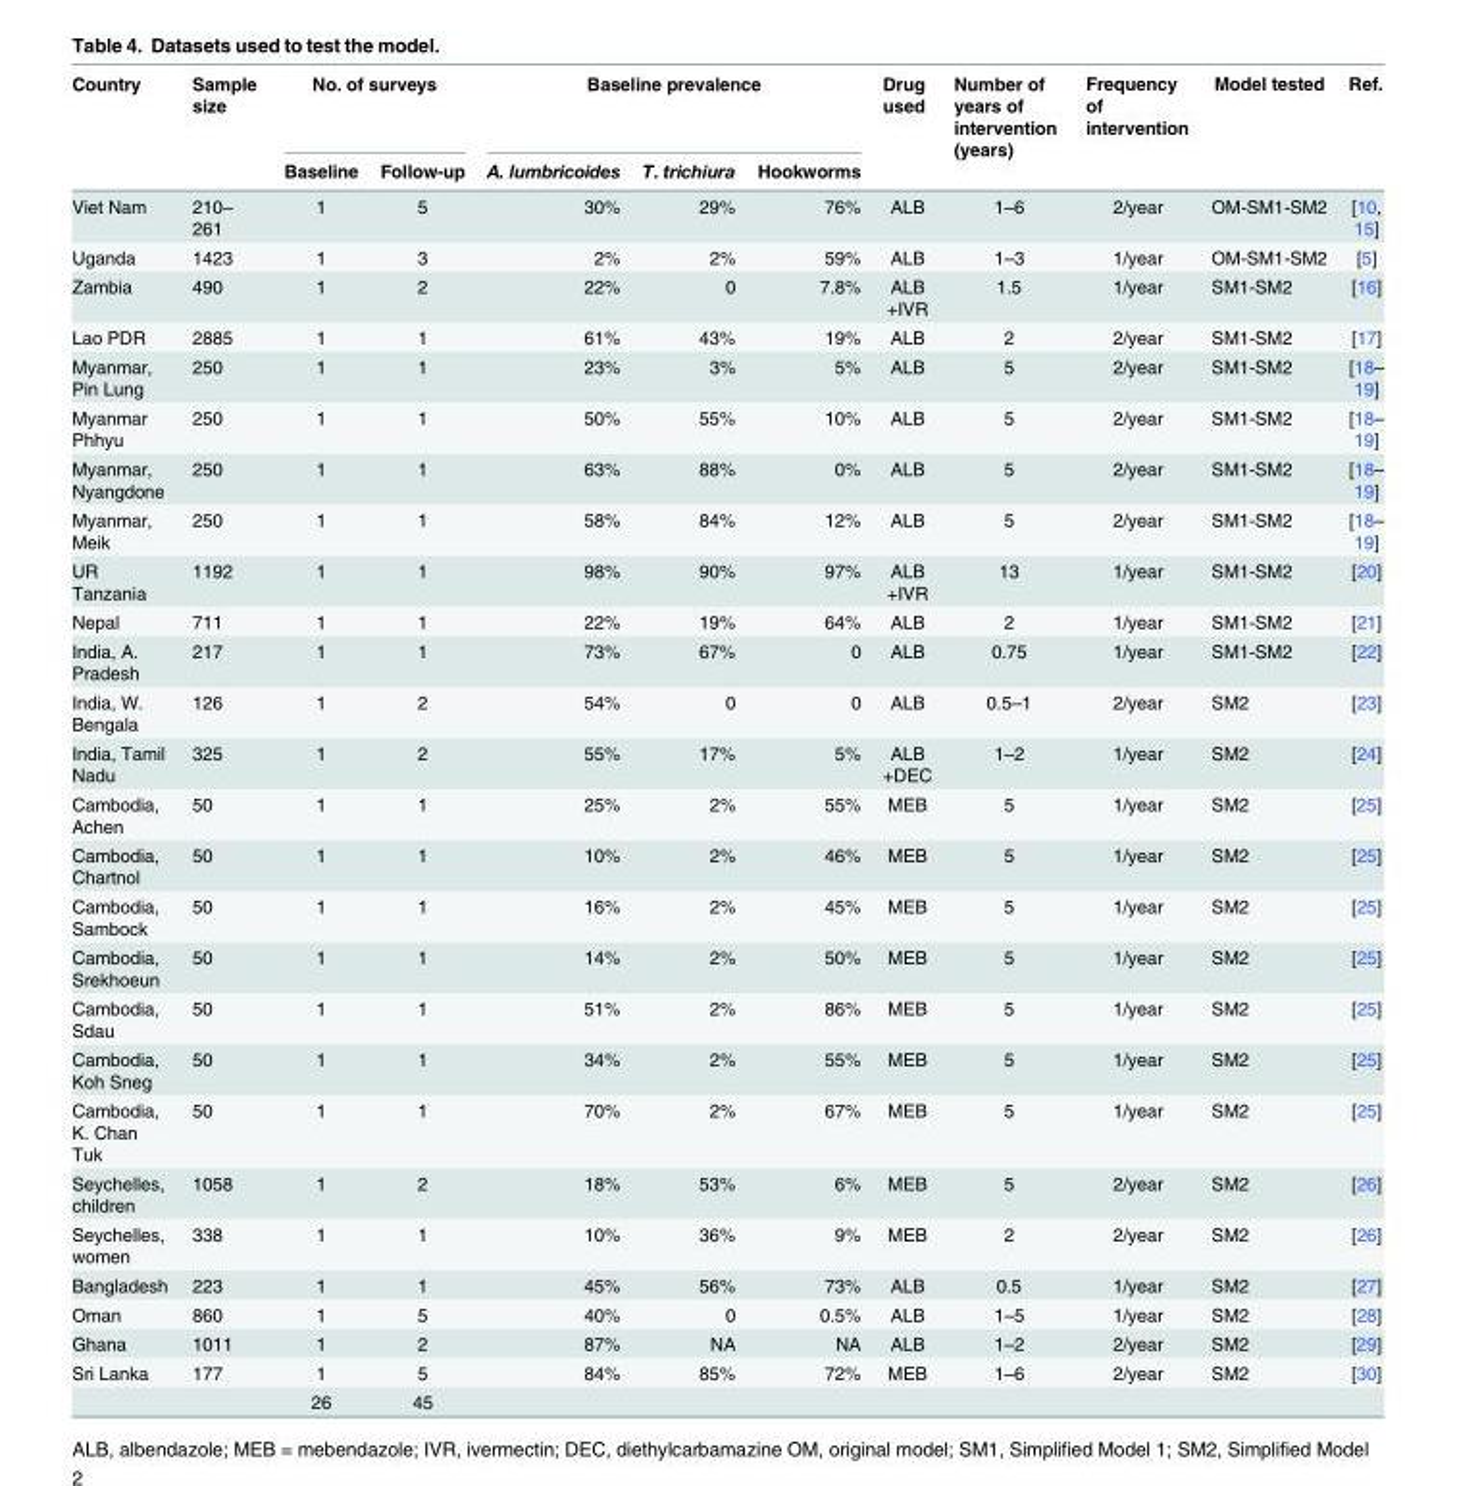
<table><thead><tr><td rowspan="2">Country</td><td rowspan="2">Sample size</td><td colspan="2">No. of surveys</td><td colspan="3">Baseline prevalence</td><td rowspan="2">Drug used</td><td rowspan="2">Number of years of intervention (years)</td><td rowspan="2">Frequency of intervention</td><td rowspan="2">Model tested</td><td rowspan="2">Ref.</td></tr><tr><td>Baseline</td><td>Follow-up</td><td>A. lumbricoides</td><td>T. trichiura</td><td>Hookworms</td></tr></thead><tbody><tr><td>Viet Nam</td><td>210– 261</td><td>1</td><td>5</td><td>30%</td><td>29%</td><td>76%</td><td>ALB</td><td>1–6</td><td>2/year</td><td>OM-SM1-SM2</td><td>[10, 15]</td></tr><tr><td>Uganda</td><td>1423</td><td>1</td><td>3</td><td>2%</td><td>2%</td><td>59%</td><td>ALB</td><td>1–3</td><td>1/year</td><td>OM-SM1-SM2</td><td>[5]</td></tr><tr><td>Zambia</td><td>490</td><td>1</td><td>2</td><td>22%</td><td>0</td><td>7.8%</td><td>ALB +IVR</td><td>1.5</td><td>1/year</td><td>SM1-SM2</td><td>[16]</td></tr><tr><td>Lao PDR</td><td>2885</td><td>1</td><td>1</td><td>61%</td><td>43%</td><td>19%</td><td>ALB</td><td>2</td><td>2/year</td><td>SM1-SM2</td><td>[17]</td></tr><tr><td>Myanmar, Pin Lung</td><td>250</td><td>1</td><td>1</td><td>23%</td><td>3%</td><td>5%</td><td>ALB</td><td>5</td><td>2/year</td><td>SM1-SM2</td><td>[18– 19]</td></tr><tr><td>Myanmar Phhyu</td><td>250</td><td>1</td><td>1</td><td>50%</td><td>55%</td><td>10%</td><td>ALB</td><td>5</td><td>2/year</td><td>SM1-SM2</td><td>[18– 19]</td></tr><tr><td>Myanmar, Nyangdone</td><td>250</td><td>1</td><td>1</td><td>63%</td><td>88%</td><td>0%</td><td>ALB</td><td>5</td><td>2/year</td><td>SM1-SM2</td><td>[18– 19]</td></tr><tr><td>Myanmar, Meik</td><td>250</td><td>1</td><td>1</td><td>58%</td><td>84%</td><td>12%</td><td>ALB</td><td>5</td><td>2/year</td><td>SM1-SM2</td><td>[18– 19]</td></tr><tr><td>UR Tanzania</td><td>1192</td><td>1</td><td>1</td><td>98%</td><td>90%</td><td>97%</td><td>ALB +IVR</td><td>13</td><td>1/year</td><td>SM1-SM2</td><td>[20]</td></tr><tr><td>Nepal</td><td>711</td><td>1</td><td>1</td><td>22%</td><td>19%</td><td>64%</td><td>ALB</td><td>2</td><td>1/year</td><td>SM1-SM2</td><td>[21]</td></tr><tr><td>India, A. Pradesh</td><td>217</td><td>1</td><td>1</td><td>73%</td><td>67%</td><td>0</td><td>ALB</td><td>0.75</td><td>1/year</td><td>SM1-SM2</td><td>[22]</td></tr><tr><td>India, W. Bengala</td><td>126</td><td>1</td><td>2</td><td>54%</td><td>0</td><td>0</td><td>ALB</td><td>0.5–1</td><td>2/year</td><td>SM2</td><td>[23]</td></tr><tr><td>India, Tamil Nadu</td><td>325</td><td>1</td><td>2</td><td>55%</td><td>17%</td><td>5%</td><td>ALB +DEC</td><td>1–2</td><td>1/year</td><td>SM2</td><td>[24]</td></tr><tr><td>Cambodia, Achen</td><td>50</td><td>1</td><td>1</td><td>25%</td><td>2%</td><td>55%</td><td>MEB</td><td>5</td><td>1/year</td><td>SM2</td><td>[25]</td></tr><tr><td>Cambodia, Chartnol</td><td>50</td><td>1</td><td>1</td><td>10%</td><td>2%</td><td>46%</td><td>MEB</td><td>5</td><td>1/year</td><td>SM2</td><td>[25]</td></tr><tr><td>Cambodia, Sambock</td><td>50</td><td>1</td><td>1</td><td>16%</td><td>2%</td><td>45%</td><td>MEB</td><td>5</td><td>1/year</td><td>SM2</td><td>[25]</td></tr><tr><td>Cambodia, Srekhoeun</td><td>50</td><td>1</td><td>1</td><td>14%</td><td>2%</td><td>50%</td><td>MEB</td><td>5</td><td>1/year</td><td>SM2</td><td>[25]</td></tr><tr><td>Cambodia, Sdau</td><td>50</td><td>1</td><td>1</td><td>51%</td><td>2%</td><td>86%</td><td>MEB</td><td>5</td><td>1/year</td><td>SM2</td><td>[25]</td></tr><tr><td>Cambodia, Koh Sneg</td><td>50</td><td>1</td><td>1</td><td>34%</td><td>2%</td><td>55%</td><td>MEB</td><td>5</td><td>1/year</td><td>SM2</td><td>[25]</td></tr><tr><td>Cambodia, K. Chan Tuk</td><td>50</td><td>1</td><td>1</td><td>70%</td><td>2%</td><td>67%</td><td>MEB</td><td>5</td><td>1/year</td><td>SM2</td><td>[25]</td></tr><tr><td>Seychelles, children</td><td>1058</td><td>1</td><td>2</td><td>18%</td><td>53%</td><td>6%</td><td>MEB</td><td>5</td><td>2/year</td><td>SM2</td><td>[26]</td></tr><tr><td>Seychelles, women</td><td>338</td><td>1</td><td>1</td><td>10%</td><td>36%</td><td>9%</td><td>MEB</td><td>2</td><td>2/year</td><td>SM2</td><td>[26]</td></tr><tr><td>Bangladesh</td><td>223</td><td>1</td><td>1</td><td>45%</td><td>56%</td><td>73%</td><td>ALB</td><td>0.5</td><td>1/year</td><td>SM2</td><td>[27]</td></tr><tr><td>Oman</td><td>860</td><td>1</td><td>5</td><td>40%</td><td>0</td><td>0.5%</td><td>ALB</td><td>1–5</td><td>1/year</td><td>SM2</td><td>[28]</td></tr><tr><td>Ghana</td><td>1011</td><td>1</td><td>2</td><td>87%</td><td>NA</td><td>NA</td><td>ALB</td><td>1–2</td><td>2/year</td><td>SM2</td><td>[29]</td></tr><tr><td rowspan="2">Sri Lanka</td><td>177</td><td>1</td><td>5</td><td>84%</td><td>85%</td><td>72%</td><td>MEB</td><td>1–6</td><td>2/year</td><td>SM2</td><td>[30]</td></tr><tr><td></td><td>26</td><td>45</td><td></td><td></td><td></td><td></td><td></td><td></td><td></td><td></td></tr></tbody></table>